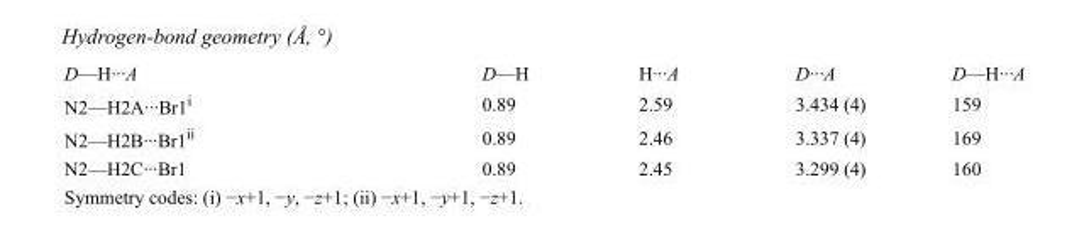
<table><tbody><tr><td>D—H···A</td><td>D—H</td><td>H···A</td><td>D···A</td><td>D—H···A</td></tr><tr><td>N2—H2A···Br1<sup>i</sup></td><td>0.89</td><td>2.59</td><td>3.434 (4)</td><td>159</td></tr><tr><td>N2—H2B···Br1<sup>ii</sup></td><td>0.89</td><td>2.46</td><td>3.337 (4)</td><td>169</td></tr><tr><td>N2—H2C···Br1</td><td>0.89</td><td>2.45</td><td>3.299 (4)</td><td>160</td></tr></tbody></table>